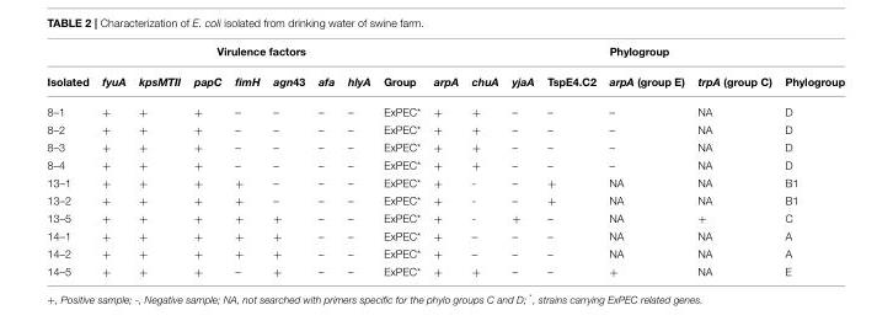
<table><thead><tr><td rowspan="2">Isolated</td><td colspan="8">Virulence factors</td><td colspan="7">Phylogroup</td></tr><tr><td>fyuA</td><td>kpsMTII</td><td>papC</td><td>fimH</td><td>agn43</td><td>afa</td><td>hlyA</td><td>Group</td><td>arpA</td><td>chuA</td><td>yjaA</td><td>TspE4.C2</td><td>arpA (group E)</td><td>trpA (group C)</td><td>Phylogroup</td></tr></thead><tbody><tr><td>8–1</td><td>+</td><td>+</td><td>+</td><td>–</td><td>–</td><td>–</td><td>–</td><td>ExPEC*</td><td>+</td><td>+</td><td>–</td><td>–</td><td>–</td><td>NA</td><td>D</td></tr><tr><td>8–2</td><td>+</td><td>+</td><td>+</td><td>–</td><td>–</td><td>–</td><td>–</td><td>ExPEC*</td><td>+</td><td>+</td><td>–</td><td>–</td><td>–</td><td>NA</td><td>D</td></tr><tr><td>8–3</td><td>+</td><td>+</td><td>+</td><td>–</td><td>–</td><td>–</td><td>–</td><td>ExPEC*</td><td>+</td><td>+</td><td>–</td><td>–</td><td>–</td><td>NA</td><td>D</td></tr><tr><td>8–4</td><td>+</td><td>+</td><td>+</td><td>–</td><td>–</td><td>–</td><td>–</td><td>ExPEC*</td><td>+</td><td>+</td><td>–</td><td>–</td><td>–</td><td>NA</td><td>D</td></tr><tr><td>13–1</td><td>+</td><td>+</td><td>+</td><td>+</td><td>–</td><td>–</td><td>–</td><td>ExPEC*</td><td>+</td><td>-</td><td>–</td><td>+</td><td>NA</td><td>NA</td><td>B1</td></tr><tr><td>13–2</td><td>+</td><td>+</td><td>+</td><td>+</td><td>–</td><td>–</td><td>–</td><td>ExPEC*</td><td>+</td><td>-</td><td>–</td><td>+</td><td>NA</td><td>NA</td><td>B1</td></tr><tr><td>13–5</td><td>+</td><td>+</td><td>+</td><td>+</td><td>+</td><td>–</td><td>–</td><td>ExPEC*</td><td>+</td><td>-</td><td>+</td><td>–</td><td>NA</td><td>+</td><td>C</td></tr><tr><td>14–1</td><td>+</td><td>+</td><td>+</td><td>+</td><td>+</td><td>–</td><td>–</td><td>ExPEC*</td><td>+</td><td>–</td><td>–</td><td>–</td><td>NA</td><td>NA</td><td>A</td></tr><tr><td>14–2</td><td>+</td><td>+</td><td>+</td><td>+</td><td>+</td><td>–</td><td>–</td><td>ExPEC*</td><td>+</td><td>–</td><td>–</td><td>–</td><td>NA</td><td>NA</td><td>A</td></tr><tr><td>14–5</td><td>+</td><td>+</td><td>+</td><td>–</td><td>+</td><td>–</td><td>–</td><td>ExPEC*</td><td>+</td><td>+</td><td>–</td><td>–</td><td>+</td><td>NA</td><td>E</td></tr></tbody></table>